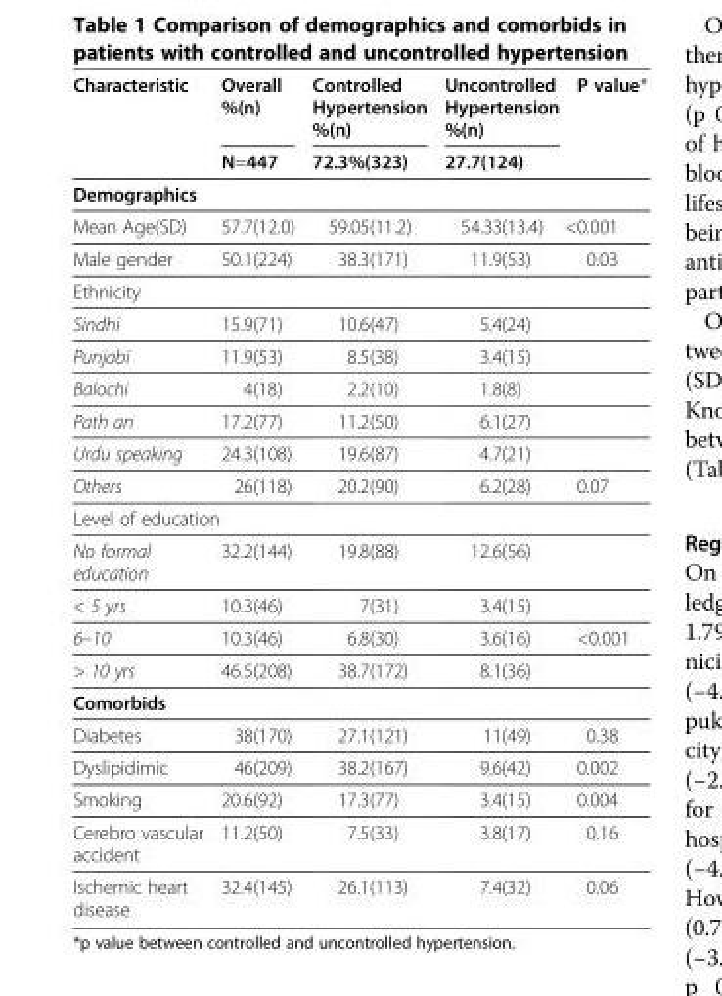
<table><thead><tr><td rowspan="2">Characteristic</td><td rowspan="2">Overall %(n) N=447</td><td rowspan="2">Controlled Hypertension %(n) 72.3%(323)</td><td rowspan="2">Uncontrolled Hypertension %(n) 27.7(124)</td><td rowspan="2">P value*</td></tr><tr></tr></thead><tbody><tr><td colspan="5">Demographics</td></tr><tr><td>Mean Age(SD)</td><td>57.7(12.0)</td><td>59.05(11.2)</td><td>54.33(13.4)</td><td>&lt;0.001</td></tr><tr><td>Male gender</td><td>50.1(224)</td><td>38.3(171)</td><td>11.9(53)</td><td>0.03</td></tr><tr><td colspan="5">Ethnicity</td></tr><tr><td>Sindhi</td><td>15.9(71)</td><td>10.6(47)</td><td>5.4(24)</td><td></td></tr><tr><td>Punjabi</td><td>11.9(53)</td><td>8.5(38)</td><td>3.4(15)</td><td></td></tr><tr><td>Balochi</td><td>4(18)</td><td>2.2(10)</td><td>1.8(8)</td><td></td></tr><tr><td>Path an</td><td>17.2(77)</td><td>11.2(50)</td><td>6.1(27)</td><td></td></tr><tr><td>Urdu speaking</td><td>24.3(108)</td><td>19.6(87)</td><td>4.7(21)</td><td></td></tr><tr><td>Others</td><td>26(118)</td><td>20.2(90)</td><td>6.2(28)</td><td>0.07</td></tr><tr><td colspan="5">Level of education</td></tr><tr><td>No formal education</td><td>32.2(144)</td><td>19.8(88)</td><td>12.6(56)</td><td></td></tr><tr><td>&lt; 5 yrs</td><td>10.3(46)</td><td>7(31)</td><td>3.4(15)</td><td></td></tr><tr><td>6–10</td><td>10.3(46)</td><td>6.8(30)</td><td>3.6(16)</td><td>&lt;0.001</td></tr><tr><td>&gt; 10 yrs</td><td>46.5(208)</td><td>38.7(172)</td><td>8.1(36)</td><td></td></tr><tr><td colspan="5">Comorbids</td></tr><tr><td>Diabetes</td><td>38(170)</td><td>27.1(121)</td><td>11(49)</td><td>0.38</td></tr><tr><td>Dyslipidimic</td><td>46(209)</td><td>38.2(167)</td><td>9.6(42)</td><td>0.002</td></tr><tr><td>Smoking</td><td>20.6(92)</td><td>17.3(77)</td><td>3.4(15)</td><td>0.004</td></tr><tr><td>Cerebro vascular accident</td><td>11.2(50)</td><td>7.5(33)</td><td>3.8(17)</td><td>0.16</td></tr><tr><td>Ischemic heart disease</td><td>32.4(145)</td><td>26.1(113)</td><td>7.4(32)</td><td>0.06</td></tr></tbody></table>